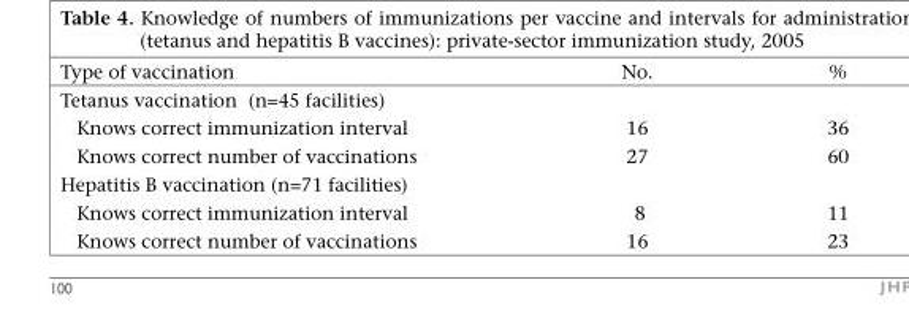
<table><thead><tr><td>Type of vaccination</td><td>No.</td><td>%</td></tr></thead><tbody><tr><td colspan="3">Tetanus vaccination (n=45 facilities)</td></tr><tr><td>Knows correct immunization interval</td><td>16</td><td>36</td></tr><tr><td>Knows correct number of vaccinations</td><td>27</td><td>60</td></tr><tr><td colspan="3">Hepatitis B vaccination (n=71 facilities)</td></tr><tr><td>Knows correct immunization interval</td><td>8</td><td>11</td></tr><tr><td>Knows correct number of vaccinations</td><td>16</td><td>23</td></tr></tbody></table>